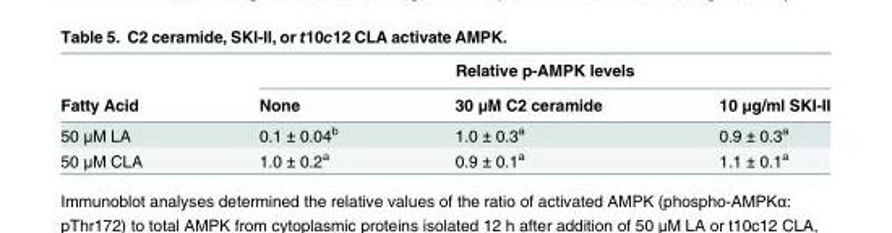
<table><thead><tr><td rowspan="2">Fatty Acid</td><td colspan="3">Relative p-AMPK levels</td></tr><tr><td>None</td><td>30 μM C2 ceramide</td><td>10 μg/ml SKI-II</td></tr></thead><tbody><tr><td>50 μM LA</td><td>0.1 ± 0.04<sup>b</sup></td><td>1.0 ± 0.3<sup>a</sup></td><td>0.9 ± 0.3<sup>a</sup></td></tr><tr><td>50 μM CLA</td><td>1.0 ± 0.2<sup>a</sup></td><td>0.9 ± 0.1<sup>a</sup></td><td>1.1 ± 0.1<sup>a</sup></td></tr></tbody></table>